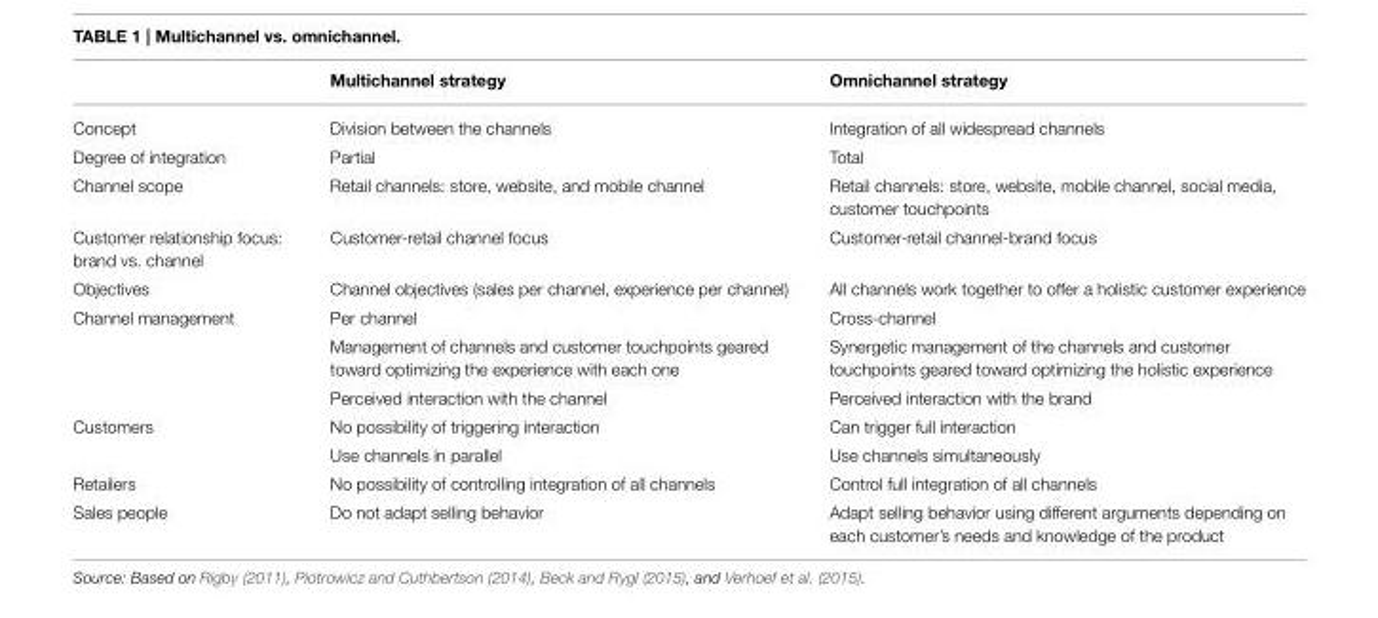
<table><thead><tr><td></td><td>Multichannel strategy</td><td>Omnichannel strategy</td></tr></thead><tbody><tr><td>Concept</td><td>Division between the channels</td><td>Integration of all widespread channels</td></tr><tr><td>Degree of integration</td><td>Partial</td><td>Total</td></tr><tr><td>Channel scope</td><td>Retail channels: store, website, and mobile channel</td><td>Retail channels: store, website, mobile channel, social media, customer touchpoints</td></tr><tr><td>Customer relationship focus: brand vs. channel</td><td>Customer-retail channel focus</td><td>Customer-retail channel-brand focus</td></tr><tr><td>Objectives</td><td>Channel objectives (sales per channel, experience per channel)</td><td>All channels work together to offer a holistic customer experience</td></tr><tr><td rowspan="3">Channel management</td><td>Per channel</td><td>Cross-channel</td></tr><tr><td>Management of channels and customer touchpoints geared toward optimizing the experience with each one</td><td>Synergetic management of the channels and customer touchpoints geared toward optimizing the holistic experience</td></tr><tr><td>Perceived interaction with the channel</td><td>Perceived interaction with the brand</td></tr><tr><td rowspan="2">Customers</td><td>No possibility of triggering interaction</td><td>Can trigger full interaction</td></tr><tr><td>Use channels in parallel</td><td>Use channels simultaneously</td></tr><tr><td>Retailers</td><td>No possibility of controlling integration of all channels</td><td>Control full integration of all channels</td></tr><tr><td>Sales people</td><td>Do not adapt selling behavior</td><td>Adapt selling behavior using different arguments depending on each customer’s needs and knowledge of the product</td></tr></tbody></table>